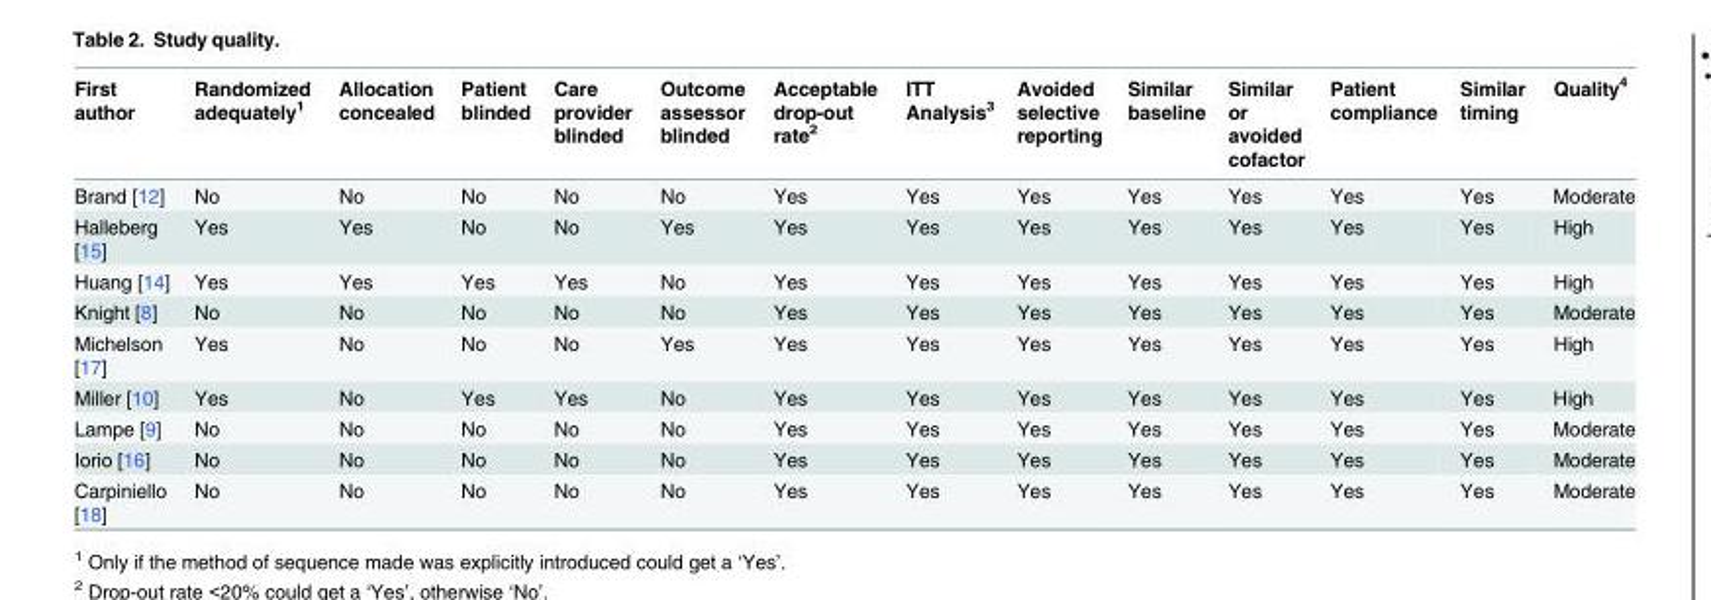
<table><thead><tr><td>First author</td><td>Randomized adequately<sup>1</sup></td><td>Allocation concealed</td><td>Patient blinded</td><td>Care provider blinded</td><td>Outcome assessor blinded</td><td>Acceptable drop-out rate<sup>2</sup></td><td>ITT Analysis<sup>3</sup></td><td>Avoided selective reporting</td><td>Similar baseline</td><td>Similar or avoided cofactor</td><td>Patient compliance</td><td>Similar timing</td><td>Quality<sup>4</sup></td></tr></thead><tbody><tr><td>Brand [12]</td><td>No</td><td>No</td><td>No</td><td>No</td><td>No</td><td>Yes</td><td>Yes</td><td>Yes</td><td>Yes</td><td>Yes</td><td>Yes</td><td>Yes</td><td>Moderate</td></tr><tr><td>Halleberg [15]</td><td>Yes</td><td>Yes</td><td>No</td><td>No</td><td>Yes</td><td>Yes</td><td>Yes</td><td>Yes</td><td>Yes</td><td>Yes</td><td>Yes</td><td>Yes</td><td>High</td></tr><tr><td>Huang [14]</td><td>Yes</td><td>Yes</td><td>Yes</td><td>Yes</td><td>No</td><td>Yes</td><td>Yes</td><td>Yes</td><td>Yes</td><td>Yes</td><td>Yes</td><td>Yes</td><td>High</td></tr><tr><td>Knight [8]</td><td>No</td><td>No</td><td>No</td><td>No</td><td>No</td><td>Yes</td><td>Yes</td><td>Yes</td><td>Yes</td><td>Yes</td><td>Yes</td><td>Yes</td><td>Moderate</td></tr><tr><td>Michelson [17]</td><td>Yes</td><td>No</td><td>No</td><td>No</td><td>Yes</td><td>Yes</td><td>Yes</td><td>Yes</td><td>Yes</td><td>Yes</td><td>Yes</td><td>Yes</td><td>High</td></tr><tr><td>Miller [10]</td><td>Yes</td><td>No</td><td>Yes</td><td>Yes</td><td>No</td><td>Yes</td><td>Yes</td><td>Yes</td><td>Yes</td><td>Yes</td><td>Yes</td><td>Yes</td><td>High</td></tr><tr><td>Lampe [9]</td><td>No</td><td>No</td><td>No</td><td>No</td><td>No</td><td>Yes</td><td>Yes</td><td>Yes</td><td>Yes</td><td>Yes</td><td>Yes</td><td>Yes</td><td>Moderate</td></tr><tr><td>Iorio [16]</td><td>No</td><td>No</td><td>No</td><td>No</td><td>No</td><td>Yes</td><td>Yes</td><td>Yes</td><td>Yes</td><td>Yes</td><td>Yes</td><td>Yes</td><td>Moderate</td></tr><tr><td>Carpiniello [18]</td><td>No</td><td>No</td><td>No</td><td>No</td><td>No</td><td>Yes</td><td>Yes</td><td>Yes</td><td>Yes</td><td>Yes</td><td>Yes</td><td>Yes</td><td>Moderate</td></tr></tbody></table>